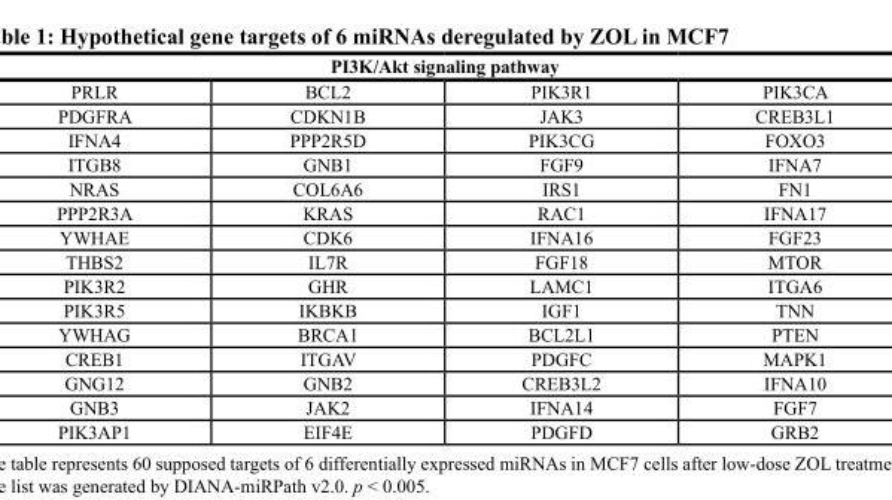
<table><thead><tr><td colspan="4">PI3K/Akt signaling pathway</td></tr><tr><td>PRLR</td><td>BCL2</td><td>PIK3R1</td><td>PIK3CA</td></tr></thead><tbody><tr><td>PDGFRA</td><td>CDKN1B</td><td>JAK3</td><td>CREB3L1</td></tr><tr><td>IFNA4</td><td>PPP2R5D</td><td>PIK3CG</td><td>FOXO3</td></tr><tr><td>ITGB8</td><td>GNB1</td><td>FGF9</td><td>IFNA7</td></tr><tr><td>NRAS</td><td>COL6A6</td><td>IRS1</td><td>FN1</td></tr><tr><td>PPP2R3A</td><td>KRAS</td><td>RAC1</td><td>IFNA17</td></tr><tr><td>YWHAE</td><td>CDK6</td><td>IFNA16</td><td>FGF23</td></tr><tr><td>THBS2</td><td>IL7R</td><td>FGF18</td><td>MTOR</td></tr><tr><td>PIK3R2</td><td>GHR</td><td>LAMC1</td><td>ITGA6</td></tr><tr><td>PIK3R5</td><td>IKBKB</td><td>IGF1</td><td>TNN</td></tr><tr><td>YWHAG</td><td>BRCA1</td><td>BCL2L1</td><td>PTEN</td></tr><tr><td>CREB1</td><td>ITGAV</td><td>PDGFC</td><td>MAPK1</td></tr><tr><td>GNG12</td><td>GNB2</td><td>CREB3L2</td><td>IFNA10</td></tr><tr><td>GNB3</td><td>JAK2</td><td>IFNA14</td><td>FGF7</td></tr><tr><td>PIK3AP1</td><td>EIF4E</td><td>PDGFD</td><td>GRB2</td></tr></tbody></table>